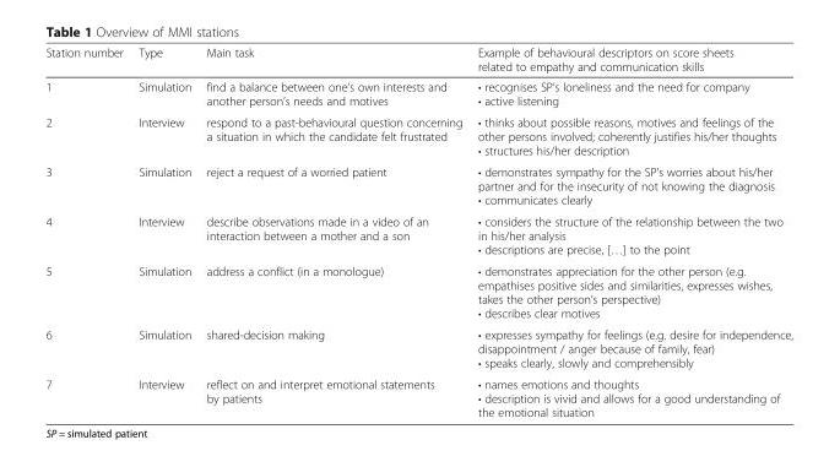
<table><thead><tr><td>Station number</td><td>Type</td><td>Main task</td><td>Example of behavioural descriptors on score sheets related to empathy and communication skills</td></tr></thead><tbody><tr><td>1</td><td>Simulation</td><td>find a balance between one’s own interests and another person’s needs and motives</td><td>• recognises SP’s loneliness and the need for company • active listening</td></tr><tr><td>2</td><td>Interview</td><td>respond to a past-behavioural question concerning a situation in which the candidate felt frustrated</td><td>• thinks about possible reasons, motives and feelings of the other persons involved; coherently justifies his/her thoughts • structures his/her description</td></tr><tr><td>3</td><td>Simulation</td><td>reject a request of a worried patient</td><td>• demonstrates sympathy for the SP’s worries about his/her partner and for the insecurity of not knowing the diagnosis • communicates clearly</td></tr><tr><td>4</td><td>Interview</td><td>describe observations made in a video of an interaction between a mother and a son</td><td>• considers the structure of the relationship between the two in his/her analysis • descriptions are precise, […] to the point</td></tr><tr><td>5</td><td>Simulation</td><td>address a conflict (in a monologue)</td><td>• demonstrates appreciation for the other person (e.g. empathises positive sides and similarities, expresses wishes, takes the other person’s perspective) • describes clear motives</td></tr><tr><td>6</td><td>Simulation</td><td>shared-decision making</td><td>• expresses sympathy for feelings (e.g. desire for independence, disappointment / anger because of family, fear) • speaks clearly, slowly and comprehensibly</td></tr><tr><td>7</td><td>Interview</td><td>reflect on and interpret emotional statements by patients</td><td>• names emotions and thoughts • description is vivid and allows for a good understanding of the emotional situation</td></tr></tbody></table>